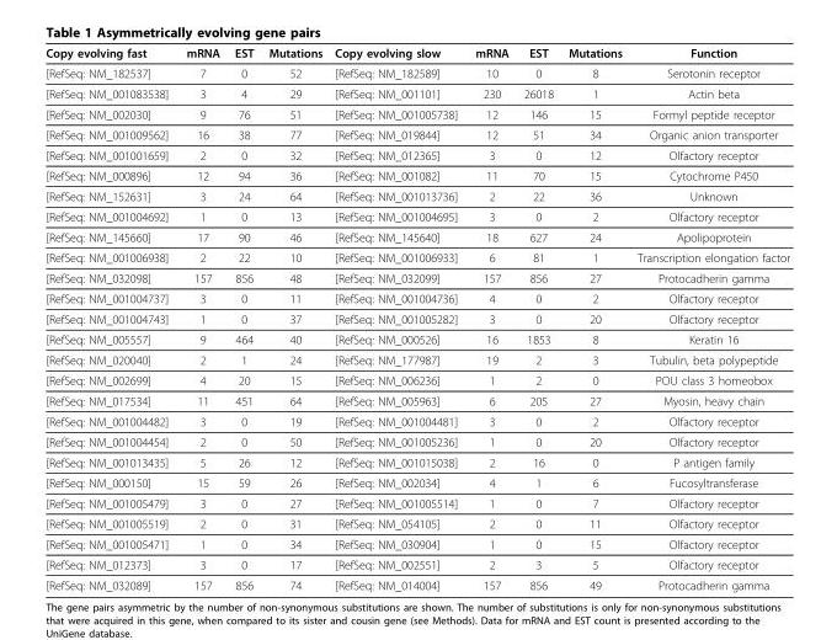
<table><thead><tr><td>Copy evolving fast</td><td>mRNA</td><td>EST</td><td>Mutations</td><td>Copy evolving slow</td><td>mRNA</td><td>EST</td><td>Mutations</td><td>Function</td></tr></thead><tbody><tr><td>[RefSeq: NM_182537]</td><td>7</td><td>0</td><td>52</td><td>[RefSeq: NM_182589]</td><td>10</td><td>0</td><td>8</td><td>Serotonin receptor</td></tr><tr><td>[RefSeq: NM_001083538]</td><td>3</td><td>4</td><td>29</td><td>[RefSeq: NM_001101]</td><td>230</td><td>26018</td><td>1</td><td>Actin beta</td></tr><tr><td>[RefSeq: NM_002030]</td><td>9</td><td>76</td><td>51</td><td>[RefSeq: NM_001005738]</td><td>12</td><td>146</td><td>15</td><td>Formyl peptide receptor</td></tr><tr><td>[RefSeq: NM_001009562]</td><td>16</td><td>38</td><td>77</td><td>[RefSeq: NM_019844]</td><td>12</td><td>51</td><td>34</td><td>Organic anion transporter</td></tr><tr><td>[RefSeq: NM_001001659]</td><td>2</td><td>0</td><td>32</td><td>[RefSeq: NM_012365]</td><td>3</td><td>0</td><td>12</td><td>Olfactory receptor</td></tr><tr><td>[RefSeq: NM_000896]</td><td>12</td><td>94</td><td>36</td><td>[RefSeq: NM_001082]</td><td>11</td><td>70</td><td>15</td><td>Cytochrome P450</td></tr><tr><td>[RefSeq: NM_152631]</td><td>3</td><td>24</td><td>64</td><td>[RefSeq: NM_001013736]</td><td>2</td><td>22</td><td>36</td><td>Unknown</td></tr><tr><td>[RefSeq: NM_001004692]</td><td>1</td><td>0</td><td>13</td><td>[RefSeq: NM_001004695]</td><td>3</td><td>0</td><td>2</td><td>Olfactory receptor</td></tr><tr><td>[RefSeq: NM_145660]</td><td>17</td><td>90</td><td>46</td><td>[RefSeq: NM_145640]</td><td>18</td><td>627</td><td>24</td><td>Apolipoprotein</td></tr><tr><td>[RefSeq: NM_001006938]</td><td>2</td><td>22</td><td>10</td><td>[RefSeq: NM_001006933]</td><td>6</td><td>81</td><td>1</td><td>Transcription elongation factor</td></tr><tr><td>[RefSeq: NM_032098]</td><td>157</td><td>856</td><td>48</td><td>[RefSeq: NM_032099]</td><td>157</td><td>856</td><td>27</td><td>Protocadherin gamma</td></tr><tr><td>[RefSeq: NM_001004737]</td><td>3</td><td>0</td><td>11</td><td>[RefSeq: NM_001004736]</td><td>4</td><td>0</td><td>2</td><td>Olfactory receptor</td></tr><tr><td>[RefSeq: NM_001004743]</td><td>1</td><td>0</td><td>37</td><td>[RefSeq: NM_001005282]</td><td>3</td><td>0</td><td>20</td><td>Olfactory receptor</td></tr><tr><td>[RefSeq: NM_005557]</td><td>9</td><td>464</td><td>40</td><td>[RefSeq: NM_000526]</td><td>16</td><td>1853</td><td>8</td><td>Keratin 16</td></tr><tr><td>[RefSeq: NM_020040]</td><td>2</td><td>1</td><td>24</td><td>[RefSeq: NM_177987]</td><td>19</td><td>2</td><td>3</td><td>Tubulin, beta polypeptide</td></tr><tr><td>[RefSeq: NM_002699]</td><td>4</td><td>20</td><td>15</td><td>[RefSeq: NM_006236]</td><td>1</td><td>2</td><td>0</td><td>POU class 3 homeobox</td></tr><tr><td>[RefSeq: NM_017534]</td><td>11</td><td>451</td><td>64</td><td>[RefSeq: NM_005963]</td><td>6</td><td>205</td><td>27</td><td>Myosin, heavy chain</td></tr><tr><td>[RefSeq: NM_001004482]</td><td>3</td><td>0</td><td>19</td><td>[RefSeq: NM_001004481]</td><td>3</td><td>0</td><td>2</td><td>Olfactory receptor</td></tr><tr><td>[RefSeq: NM_001004454]</td><td>2</td><td>0</td><td>50</td><td>[RefSeq: NM_001005236]</td><td>1</td><td>0</td><td>20</td><td>Olfactory receptor</td></tr><tr><td>[RefSeq: NM_001013435]</td><td>5</td><td>26</td><td>12</td><td>[RefSeq: NM_001015038]</td><td>2</td><td>16</td><td>0</td><td>P antigen family</td></tr><tr><td>[RefSeq: NM_000150]</td><td>15</td><td>59</td><td>26</td><td>[RefSeq: NM_002034]</td><td>4</td><td>1</td><td>6</td><td>Fucosyltransferase</td></tr><tr><td>[RefSeq: NM_001005479]</td><td>3</td><td>0</td><td>27</td><td>[RefSeq: NM_001005514]</td><td>1</td><td>0</td><td>7</td><td>Olfactory receptor</td></tr><tr><td>[RefSeq: NM_001005519]</td><td>2</td><td>0</td><td>31</td><td>[RefSeq: NM_054105]</td><td>2</td><td>0</td><td>11</td><td>Olfactory receptor</td></tr><tr><td>[RefSeq: NM_001005471]</td><td>1</td><td>0</td><td>34</td><td>[RefSeq: NM_030904]</td><td>1</td><td>0</td><td>15</td><td>Olfactory receptor</td></tr><tr><td>[RefSeq: NM_012373]</td><td>3</td><td>0</td><td>17</td><td>[RefSeq: NM_002551]</td><td>2</td><td>3</td><td>5</td><td>Olfactory receptor</td></tr><tr><td>[RefSeq: NM_032089]</td><td>157</td><td>856</td><td>74</td><td>[RefSeq: NM_014004]</td><td>157</td><td>856</td><td>49</td><td>Protocadherin gamma</td></tr></tbody></table>